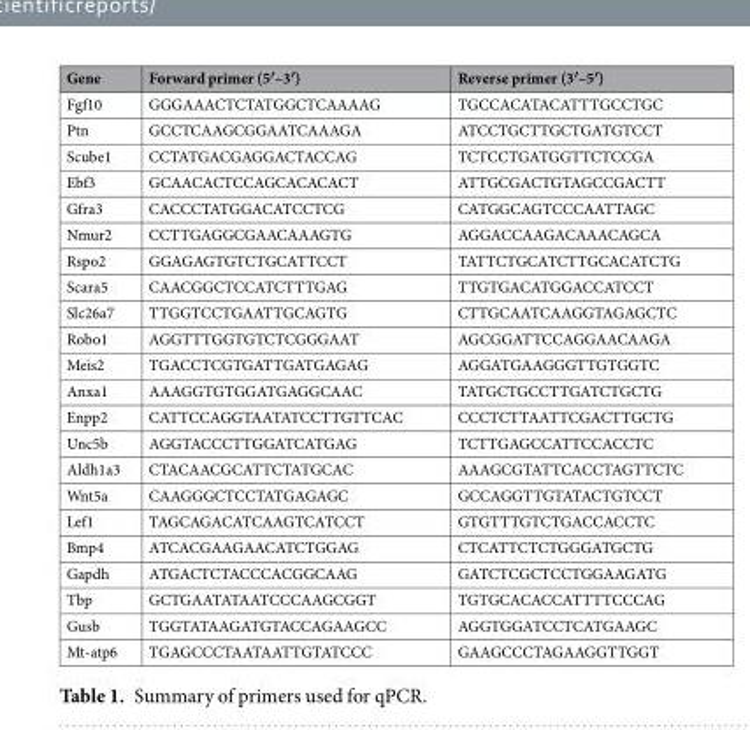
<table><thead><tr><td>Gene</td><td>Forward primer (5′–3′)</td><td>Reverse primer (3′–5′)</td></tr></thead><tbody><tr><td>Fgf10</td><td>GGGAAACTCTATGGCTCAAAAG</td><td>TGCCACATACATTTGCCTGC</td></tr><tr><td>Ptn</td><td>GCCTCAAGCGGAATCAAAGA</td><td>ATCCTGCTTGCTGATGTCCT</td></tr><tr><td>Scube1</td><td>CCTATGACGAGGACTACCAG</td><td>TCTCCTGATGGTTCTCCGA</td></tr><tr><td>Ebf3</td><td>GCAACACTCCAGCACACACT</td><td>ATTGCGACTGTAGCCGACTT</td></tr><tr><td>Gfra3</td><td>CACCCTATGGACATCCTCG</td><td>CATGGCAGTCCCAATTAGC</td></tr><tr><td>Nmur2</td><td>CCTTGAGGCGAACAAAGTG</td><td>AGGACCAAGACAAACAGCA</td></tr><tr><td>Rspo2</td><td>GGAGAGTGTCTGCATTCCT</td><td>TATTCTGCATCTTGCACATCTG</td></tr><tr><td>Scara5</td><td>CAACGGCTCCATCTTTGAG</td><td>TTGTGACATGGACCATCCT</td></tr><tr><td>Slc26a7</td><td>TTGGTCCTGAATTGCAGTG</td><td>CTTGCAATCAAGGTAGAGCTC</td></tr><tr><td>Robo1</td><td>AGGTTTGGTGTCTCGGGAAT</td><td>AGCGGATTCCAGGAACAAGA</td></tr><tr><td>Meis2</td><td>TGACCTCGTGATTGATGAGAG</td><td>AGGATGAAGGGTTGTGGTC</td></tr><tr><td>Anxa1</td><td>AAAGGTGTGGATGAGGCAAC</td><td>TATGCTGCCTTGATCTGCTG</td></tr><tr><td>Enpp2</td><td>CATTCCAGGTAATATCCTTGTTCAC</td><td>CCCTCTTAATTCGACTTGCTG</td></tr><tr><td>Unc5b</td><td>AGGTACCCTTGGATCATGAG</td><td>TCTTGAGCCATTCCACCTC</td></tr><tr><td>Aldh1a3</td><td>CTACAACGCATTCTATGCAC</td><td>AAAGCGTATTCACCTAGTTCTC</td></tr><tr><td>Wnt5a</td><td>CAAGGGCTCCTATGAGAGC</td><td>GCCAGGTTGTATACTGTCCT</td></tr><tr><td>Lef1</td><td>TAGCAGACATCAAGTCATCCT</td><td>GTGTTTGTCTGACCACCTC</td></tr><tr><td>Bmp4</td><td>ATCACGAAGAACATCTGGAG</td><td>CTCATTCTCTGGGATGCTG</td></tr><tr><td>Gapdh</td><td>ATGACTCTACCCACGGCAAG</td><td>GATCTCGCTCCTGGAAGATG</td></tr><tr><td>Tbp</td><td>GCTGAATATAATCCCAAGCGGT</td><td>TGTGCACACCATTTTCCCAG</td></tr><tr><td>Gusb</td><td>TGGTATAAGATGTACCAGAAGCC</td><td>AGGTGGATCCTCATGAAGC</td></tr><tr><td>Mt-atp6</td><td>TGAGCCCTAATAATTGTATCCC</td><td>GAAGCCCTAGAAGGTTGGT</td></tr></tbody></table>